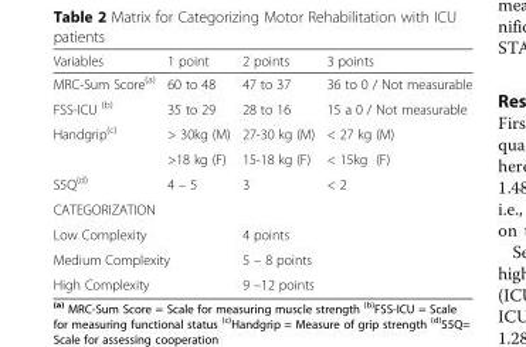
<table><thead><tr><td>Variables</td><td>1 point</td><td>2 points</td><td>3 points</td></tr></thead><tbody><tr><td>MRC-Sum Score<sup>(a)</sup></td><td>60 to 48</td><td>47 to 37</td><td>36 to 0 / Not measurable</td></tr><tr><td>FSS-ICU <sup>(b)</sup></td><td>35 to 29</td><td>28 to 16</td><td>15 a 0 / Not measurable</td></tr><tr><td rowspan="2">Handgrip<sup>(c)</sup></td><td>&gt; 30kg (M)</td><td>27-30 kg (M)</td><td>&lt; 27 kg (M)</td></tr><tr><td>&gt;18 kg (F)</td><td>15-18 kg (F)</td><td>&lt; 15kg (F)</td></tr><tr><td>S5Q<sup>(d)</sup></td><td>4 – 5</td><td>3</td><td>&lt; 2</td></tr><tr><td colspan="4">CATEGORIZATION</td></tr><tr><td colspan="2">Low Complexity</td><td colspan="2">4 points</td></tr><tr><td colspan="2">Medium Complexity</td><td colspan="2">5 – 8 points</td></tr><tr><td colspan="2">High Complexity</td><td colspan="2">9 –12 points</td></tr></tbody></table>